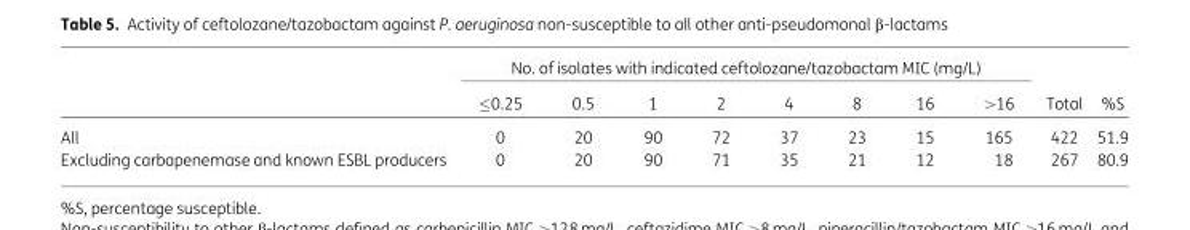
<table><thead><tr><td rowspan="2"></td><td colspan="8">No. of isolates with indicated ceftolozane/tazobactam MIC (mg/L)</td><td rowspan="2">Total</td><td rowspan="2">%S</td></tr><tr><td>≤0.25</td><td>0.5</td><td>1</td><td>2</td><td>4</td><td>8</td><td>16</td><td>&gt;16</td></tr></thead><tbody><tr><td>All</td><td>0</td><td>20</td><td>90</td><td>72</td><td>37</td><td>23</td><td>15</td><td>165</td><td>422</td><td>51.9</td></tr><tr><td>Excluding carbapenemase and known ESBL producers</td><td>0</td><td>20</td><td>90</td><td>71</td><td>35</td><td>21</td><td>12</td><td>18</td><td>267</td><td>80.9</td></tr></tbody></table>